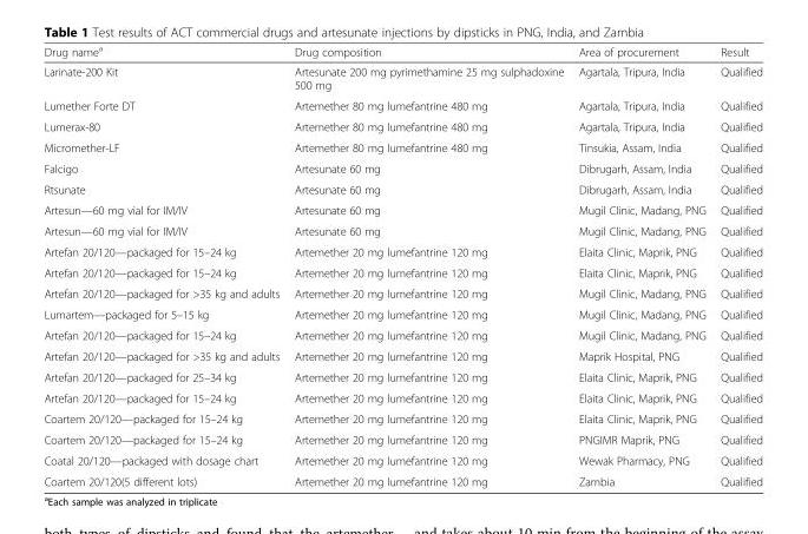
<table><thead><tr><td>Drug name<sup>a</sup></td><td>Drug composition</td><td>Area of procurement</td><td>Result</td></tr></thead><tbody><tr><td>Larinate-200 Kit</td><td>Artesunate 200 mg pyrimethamine 25 mg sulphadoxine 500 mg</td><td>Agartala, Tripura, India</td><td>Qualified</td></tr><tr><td>Lumether Forte DT</td><td>Artemether 80 mg lumefantrine 480 mg</td><td>Agartala, Tripura, India</td><td>Qualified</td></tr><tr><td>Lumerax-80</td><td>Artemether 80 mg lumefantrine 480 mg</td><td>Agartala, Tripura, India</td><td>Qualified</td></tr><tr><td>Micromether-LF</td><td>Artemether 80 mg lumefantrine 480 mg</td><td>Tinsukia, Assam, India</td><td>Qualified</td></tr><tr><td>Falcigo</td><td>Artesunate 60 mg</td><td>Dibrugarh, Assam, India</td><td>Qualified</td></tr><tr><td>Rtsunate</td><td>Artesunate 60 mg</td><td>Dibrugarh, Assam, India</td><td>Qualified</td></tr><tr><td>Artesun—60 mg vial for IM/IV</td><td>Artesunate 60 mg</td><td>Mugil Clinic, Madang, PNG</td><td>Qualified</td></tr><tr><td>Artesun—60 mg vial for IM/IV</td><td>Artesunate 60 mg</td><td>Mugil Clinic, Madang, PNG</td><td>Qualified</td></tr><tr><td>Artefan 20/120—packaged for 15–24 kg</td><td>Artemether 20 mg lumefantrine 120 mg</td><td>Elaita Clinic, Maprik, PNG</td><td>Qualified</td></tr><tr><td>Artefan 20/120—packaged for 15–24 kg</td><td>Artemether 20 mg lumefantrine 120 mg</td><td>Elaita Clinic, Maprik, PNG</td><td>Qualified</td></tr><tr><td>Artefan 20/120—packaged for &gt;35 kg and adults</td><td>Artemether 20 mg lumefantrine 120 mg</td><td>Mugil Clinic, Madang, PNG</td><td>Qualified</td></tr><tr><td>Lumartem—packaged for 5–15 kg</td><td>Artemether 20 mg lumefantrine 120 mg</td><td>Mugil Clinic, Madang, PNG</td><td>Qualified</td></tr><tr><td>Artefan 20/120—packaged for 15–24 kg</td><td>Artemether 20 mg lumefantrine 120 mg</td><td>Mugil Clinic, Madang, PNG</td><td>Qualified</td></tr><tr><td>Artefan 20/120—packaged for &gt;35 kg and adults</td><td>Artemether 20 mg lumefantrine 120 mg</td><td>Maprik Hospital, PNG</td><td>Qualified</td></tr><tr><td>Artefan 20/120—packaged for 25–34 kg</td><td>Artemether 20 mg lumefantrine 120 mg</td><td>Elaita Clinic, Maprik, PNG</td><td>Qualified</td></tr><tr><td>Artefan 20/120—packaged for 15–24 kg</td><td>Artemether 20 mg lumefantrine 120 mg</td><td>Elaita Clinic, Maprik, PNG</td><td>Qualified</td></tr><tr><td>Coartem 20/120—packaged for 15–24 kg</td><td>Artemether 20 mg lumefantrine 120 mg</td><td>Elaita Clinic, Maprik, PNG</td><td>Qualified</td></tr><tr><td>Coartem 20/120—packaged for 15–24 kg</td><td>Artemether 20 mg lumefantrine 120 mg</td><td>PNGIMR Maprik, PNG</td><td>Qualified</td></tr><tr><td>Coatal 20/120—packaged with dosage chart</td><td>Artemether 20 mg lumefantrine 120 mg</td><td>Wewak Pharmacy, PNG</td><td>Qualified</td></tr><tr><td>Coartem 20/120(5 different lots)</td><td>Artemether 20 mg lumefantrine 120 mg</td><td>Zambia</td><td>Qualified</td></tr></tbody></table>